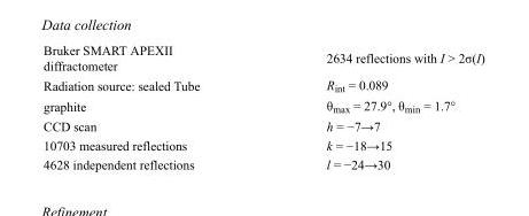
<table><tbody><tr><td>Bruker SMART APEXII diffractometer</td><td>2634 reflections with I &gt; 2σ(I)</td></tr><tr><td>Radiation source: sealed Tube</td><td>R<sub>int</sub> = 0.089</td></tr><tr><td>graphite</td><td>θ<sub>max</sub> = 27.9°, θ<sub>min</sub> = 1.7°</td></tr><tr><td>CCD scan</td><td>h = −7→7</td></tr><tr><td>10703 measured reflections</td><td>k = −18→15</td></tr><tr><td>4628 independent reflections</td><td>l = −24→30</td></tr></tbody></table>